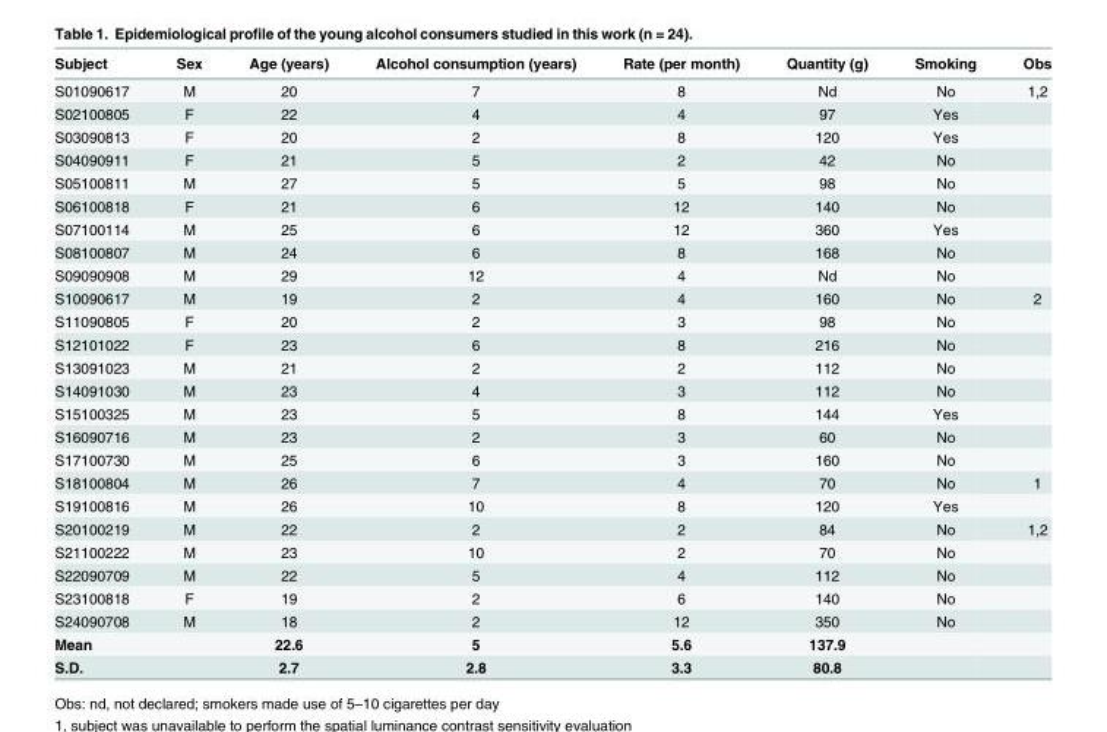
<table><thead><tr><td>Subject</td><td>Sex</td><td>Age (years)</td><td>Alcohol consumption (years)</td><td>Rate (per month)</td><td>Quantity (g)</td><td>Smoking</td><td>Obs</td></tr></thead><tbody><tr><td>S01090617</td><td>M</td><td>20</td><td>7</td><td>8</td><td>Nd</td><td>No</td><td>1,2</td></tr><tr><td>S02100805</td><td>F</td><td>22</td><td>4</td><td>4</td><td>97</td><td>Yes</td><td></td></tr><tr><td>S03090813</td><td>F</td><td>20</td><td>2</td><td>8</td><td>120</td><td>Yes</td><td></td></tr><tr><td>S04090911</td><td>F</td><td>21</td><td>5</td><td>2</td><td>42</td><td>No</td><td></td></tr><tr><td>S05100811</td><td>M</td><td>27</td><td>5</td><td>5</td><td>98</td><td>No</td><td></td></tr><tr><td>S06100818</td><td>F</td><td>21</td><td>6</td><td>12</td><td>140</td><td>No</td><td></td></tr><tr><td>S07100114</td><td>M</td><td>25</td><td>6</td><td>12</td><td>360</td><td>Yes</td><td></td></tr><tr><td>S08100807</td><td>M</td><td>24</td><td>6</td><td>8</td><td>168</td><td>No</td><td></td></tr><tr><td>S09090908</td><td>M</td><td>29</td><td>12</td><td>4</td><td>Nd</td><td>No</td><td></td></tr><tr><td>S10090617</td><td>M</td><td>19</td><td>2</td><td>4</td><td>160</td><td>No</td><td>2</td></tr><tr><td>S11090805</td><td>F</td><td>20</td><td>2</td><td>3</td><td>98</td><td>No</td><td></td></tr><tr><td>S12101022</td><td>F</td><td>23</td><td>6</td><td>8</td><td>216</td><td>No</td><td></td></tr><tr><td>S13091023</td><td>M</td><td>21</td><td>2</td><td>2</td><td>112</td><td>No</td><td></td></tr><tr><td>S14091030</td><td>M</td><td>23</td><td>4</td><td>3</td><td>112</td><td>No</td><td></td></tr><tr><td>S15100325</td><td>M</td><td>23</td><td>5</td><td>8</td><td>144</td><td>Yes</td><td></td></tr><tr><td>S16090716</td><td>M</td><td>23</td><td>2</td><td>3</td><td>60</td><td>No</td><td></td></tr><tr><td>S17100730</td><td>M</td><td>25</td><td>6</td><td>3</td><td>160</td><td>No</td><td></td></tr><tr><td>S18100804</td><td>M</td><td>26</td><td>7</td><td>4</td><td>70</td><td>No</td><td>1</td></tr><tr><td>S19100816</td><td>M</td><td>26</td><td>10</td><td>8</td><td>120</td><td>Yes</td><td></td></tr><tr><td>S20100219</td><td>M</td><td>22</td><td>2</td><td>2</td><td>84</td><td>No</td><td>1,2</td></tr><tr><td>S21100222</td><td>M</td><td>23</td><td>10</td><td>2</td><td>70</td><td>No</td><td></td></tr><tr><td>S22090709</td><td>M</td><td>22</td><td>5</td><td>4</td><td>112</td><td>No</td><td></td></tr><tr><td>S23100818</td><td>F</td><td>19</td><td>2</td><td>6</td><td>140</td><td>No</td><td></td></tr><tr><td>S24090708</td><td>M</td><td>18</td><td>2</td><td>12</td><td>350</td><td>No</td><td></td></tr><tr><td>Mean</td><td></td><td>22.6</td><td>5</td><td>5.6</td><td>137.9</td><td></td><td></td></tr><tr><td>S.D.</td><td></td><td>2.7</td><td>2.8</td><td>3.3</td><td>80.8</td><td></td><td></td></tr></tbody></table>